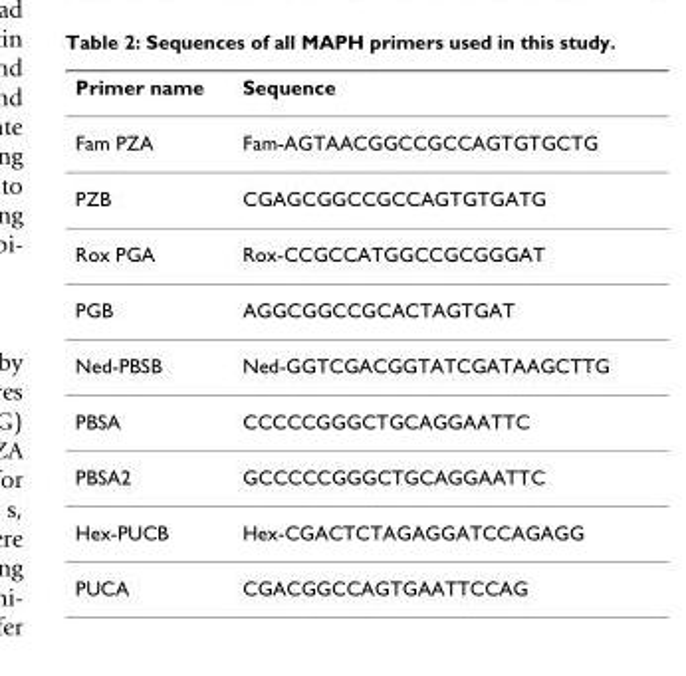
<table><thead><tr><td>Primer name</td><td>Sequence</td></tr></thead><tbody><tr><td>Fam PZA</td><td>Fam-AGTAACGGCCGCCAGTGTGCTG</td></tr><tr><td>PZB</td><td>CGAGCGGCCGCCAGTGTGATG</td></tr><tr><td>Rox PGA</td><td>Rox-CCGCCATGGCCGCGGGAT</td></tr><tr><td>PGB</td><td>AGGCGGCCGCACTAGTGAT</td></tr><tr><td>Ned-PBSB</td><td>Ned-GGTCGACGGTATCGATAAGCTTG</td></tr><tr><td>PBSA</td><td>CCCCCGGGCTGCAGGAATTC</td></tr><tr><td>PBSA2</td><td>GCCCCCGGGCTGCAGGAATTC</td></tr><tr><td>Hex-PUCB</td><td>Hex-CGACTCTAGAGGATCCAGAGG</td></tr><tr><td>PUCA</td><td>CGACGGCCAGTGAATTCCAG</td></tr></tbody></table>